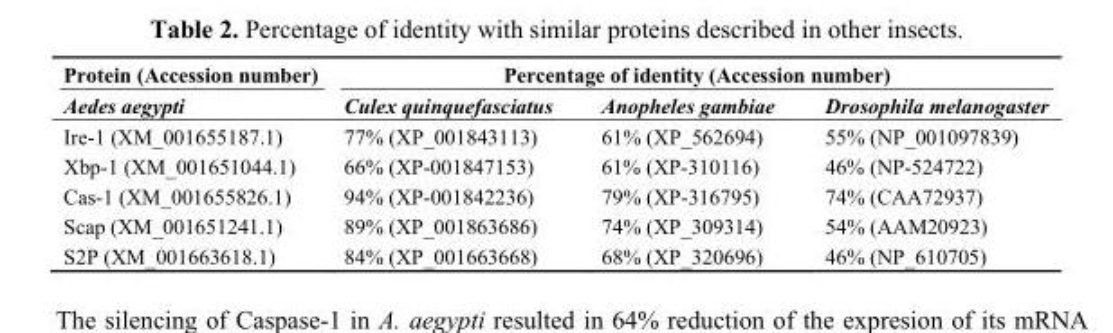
<table><thead><tr><td rowspan="2">Protein (Accession number) Aedes aegypti</td><td colspan="3">Percentage of identity (Accession number)</td></tr><tr><td>Culex quinquefasciatus</td><td>Anopheles gambiae</td><td>Drosophila melanogaster</td></tr></thead><tbody><tr><td>Ire-1 (XM_001655187.1)</td><td>77% (XP_001843113)</td><td>61% (XP_562694)</td><td>55% (NP_001097839)</td></tr><tr><td>Xbp-1 (XM_001651044.1)</td><td>66% (XP-001847153)</td><td>61% (XP-310116)</td><td>46% (NP-524722)</td></tr><tr><td>Cas-1 (XM_001655826.1)</td><td>94% (XP-001842236)</td><td>79% (XP-316795)</td><td>74% (CAA72937)</td></tr><tr><td>Scap (XM_001651241.1)</td><td>89% (XP_001863686)</td><td>74% (XP_309314)</td><td>54% (AAM20923)</td></tr><tr><td>S2P (XM_001663618.1)</td><td>84% (XP_001663668)</td><td>68% (XP_320696)</td><td>46% (NP_610705)</td></tr></tbody></table>